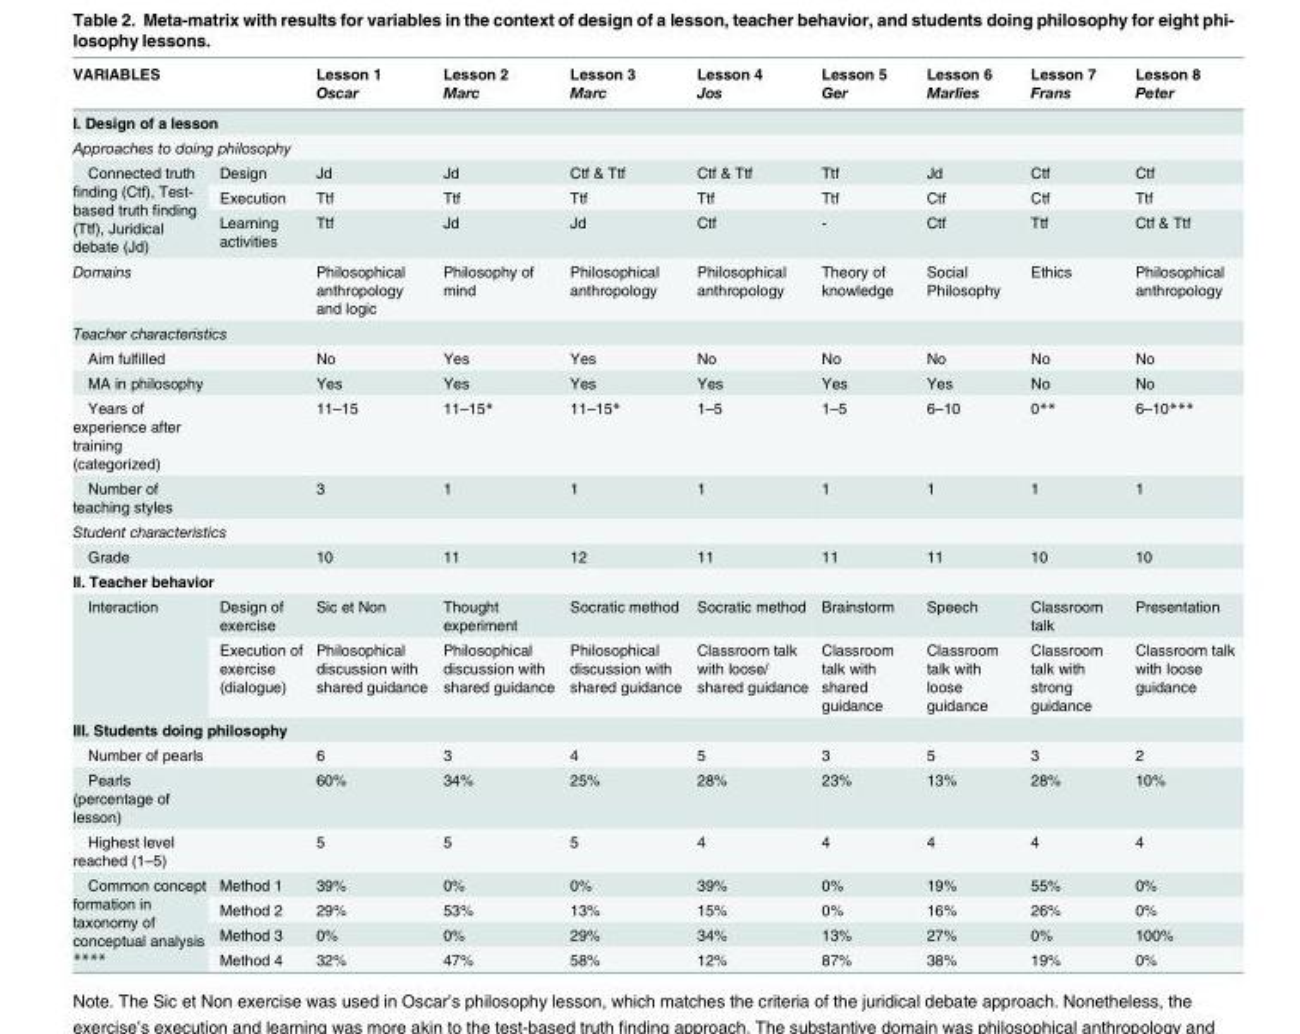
<table><thead><tr><td rowspan="2">VARIABLES</td><td rowspan="2"></td><td rowspan="2">Lesson 1 Oscar</td><td rowspan="2">Lesson 2 Marc</td><td rowspan="2">Lesson 3 Marc</td><td rowspan="2">Lesson 4 Jos</td><td rowspan="2">Lesson 5 Ger</td><td rowspan="2">Lesson 6 Marlies</td><td rowspan="2">Lesson 7 Frans</td><td rowspan="2">Lesson 8 Peter</td></tr><tr></tr></thead><tbody><tr><td colspan="10">I. Design of a lesson</td></tr><tr><td colspan="10">Approaches to doing philosophy</td></tr><tr><td rowspan="3">Connected truth finding (Ctf), Test- based truth finding (Ttf), Juridical debate (Jd)</td><td>Design</td><td>Jd</td><td>Jd</td><td>Ctf &amp; Ttf</td><td>Ctf &amp; Ttf</td><td>Ttf</td><td>Jd</td><td>Ctf</td><td>Ctf</td></tr><tr><td>Execution</td><td>Ttf</td><td>Ttf</td><td>Ttf</td><td>Ttf</td><td>Ttf</td><td>Ctf</td><td>Ctf</td><td>Ttf</td></tr><tr><td>Learning activities</td><td>Ttf</td><td>Jd</td><td>Jd</td><td>Ctf</td><td>-</td><td>Ctf</td><td>Ttf</td><td>Ctf &amp; Ttf</td></tr><tr><td>Domains</td><td></td><td>Philosophical anthropology and logic</td><td>Philosophy of mind</td><td>Philosophical anthropology</td><td>Philosophical anthropology</td><td>Theory of knowledge</td><td>Social Philosophy</td><td>Ethics</td><td>Philosophical anthropology</td></tr><tr><td colspan="10">Teacher characteristics</td></tr><tr><td>Aim fulfilled</td><td></td><td>No</td><td>Yes</td><td>Yes</td><td>No</td><td>No</td><td>No</td><td>No</td><td>No</td></tr><tr><td>MA in philosophy</td><td></td><td>Yes</td><td>Yes</td><td>Yes</td><td>Yes</td><td>Yes</td><td>Yes</td><td>No</td><td>No</td></tr><tr><td>Years of experience after training (categorized)</td><td></td><td>11–15</td><td>11–15*</td><td>11–15*</td><td>1–5</td><td>1–5</td><td>6–10</td><td>0**</td><td>6–10***</td></tr><tr><td>Number of teaching styles</td><td></td><td>3</td><td>1</td><td>1</td><td>1</td><td>1</td><td>1</td><td>1</td><td>1</td></tr><tr><td colspan="10">Student characteristics</td></tr><tr><td>Grade</td><td></td><td>10</td><td>11</td><td>12</td><td>11</td><td>11</td><td>11</td><td>10</td><td>10</td></tr><tr><td colspan="10">II. Teacher behavior</td></tr><tr><td rowspan="2">Interaction</td><td>Design of exercise</td><td>Sic et Non</td><td>Thought experiment</td><td>Socratic method</td><td>Socratic method</td><td>Brainstorm</td><td>Speech</td><td>Classroom talk</td><td>Presentation</td></tr><tr><td>Execution of exercise (dialogue)</td><td>Philosophical discussion with shared guidance</td><td>Philosophical discussion with shared guidance</td><td>Philosophical discussion with shared guidance</td><td>Classroom talk with loose/ shared guidance</td><td>Classroom talk with shared guidance</td><td>Classroom talk with loose guidance</td><td>Classroom talk with strong guidance</td><td>Classroom talk with loose guidance</td></tr><tr><td colspan="10">III. Students doing philosophy</td></tr><tr><td>Number of pearls</td><td></td><td>6</td><td>3</td><td>4</td><td>5</td><td>3</td><td>5</td><td>3</td><td>2</td></tr><tr><td>Pearls (percentage of lesson)</td><td></td><td>60%</td><td>34%</td><td>25%</td><td>28%</td><td>23%</td><td>13%</td><td>28%</td><td>10%</td></tr><tr><td>Highest level reached (1–5)</td><td></td><td>5</td><td>5</td><td>5</td><td>4</td><td>4</td><td>4</td><td>4</td><td>4</td></tr><tr><td rowspan="4">Common concept formation in taxonomy of conceptual analysis ****</td><td>Method 1</td><td>39%</td><td>0%</td><td>0%</td><td>39%</td><td>0%</td><td>19%</td><td>55%</td><td>0%</td></tr><tr><td>Method 2</td><td>29%</td><td>53%</td><td>13%</td><td>15%</td><td>0%</td><td>16%</td><td>26%</td><td>0%</td></tr><tr><td>Method 3</td><td>0%</td><td>0%</td><td>29%</td><td>34%</td><td>13%</td><td>27%</td><td>0%</td><td>100%</td></tr><tr><td>Method 4</td><td>32%</td><td>47%</td><td>58%</td><td>12%</td><td>87%</td><td>38%</td><td>19%</td><td>0%</td></tr></tbody></table>